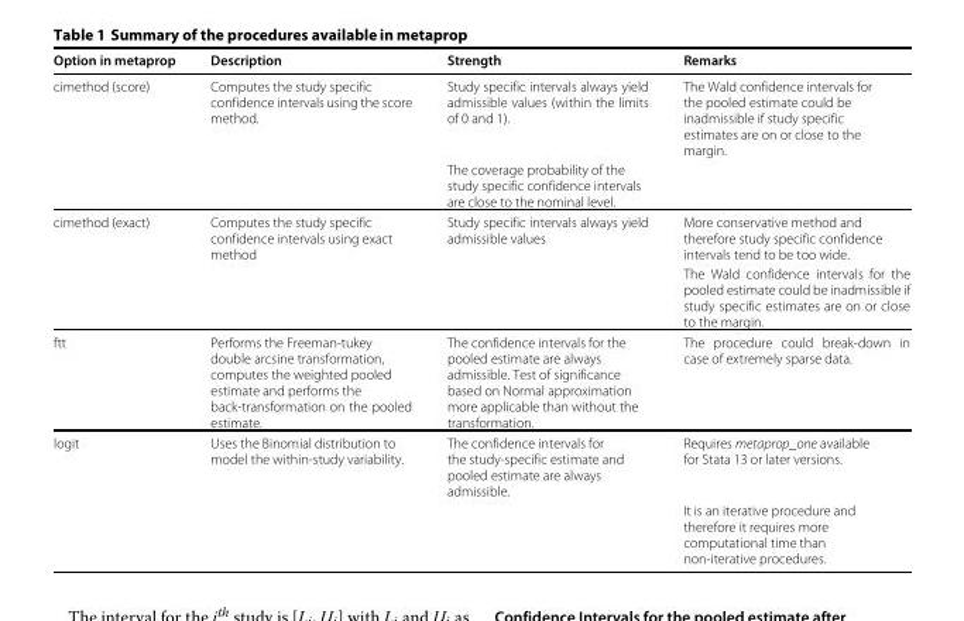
<table><thead><tr><td>Option in metaprop</td><td>Description</td><td>Strength</td><td>Remarks</td></tr></thead><tbody><tr><td rowspan="2">cimethod (score)</td><td>Computes the study specific confidence intervals using the score method.</td><td>Study specific intervals always yield admissible values (within the limits of 0 and 1).</td><td>The Wald confidence intervals for the pooled estimate could be inadmissible if study specific estimates are on or close to the margin.</td></tr><tr><td></td><td>The coverage probability of the study specific confidence intervals are close to the nominal level.</td><td></td></tr><tr><td rowspan="2">cimethod (exact)</td><td>Computes the study specific confidence intervals using exact method</td><td>Study specific intervals always yield admissible values</td><td>More conservative method and therefore study specific confidence intervals tend to be too wide.</td></tr><tr><td></td><td></td><td>The Wald confidence intervals for the pooled estimate could be inadmissible if study specific estimates are on or close to the margin.</td></tr><tr><td>ftt</td><td>Performs the Freeman-tukey double arcsine transformation, computes the weighted pooled estimate and performs the back-transformation on the pooled estimate.</td><td>The confidence intervals for the pooled estimate are always admissible. Test of significance based on Normal approximation more applicable than without the transformation.</td><td>The procedure could break-down in case of extremely sparse data.</td></tr><tr><td rowspan="2">logit</td><td>Uses the Binomial distribution to model the within-study variability.</td><td>The confidence intervals for the study-specific estimate and pooled estimate are always admissible.</td><td>Requires metaprop_one available for Stata 13 or later versions.</td></tr><tr><td></td><td></td><td>It is an iterative procedure and therefore it requires more computational time than non-iterative procedures.</td></tr></tbody></table>